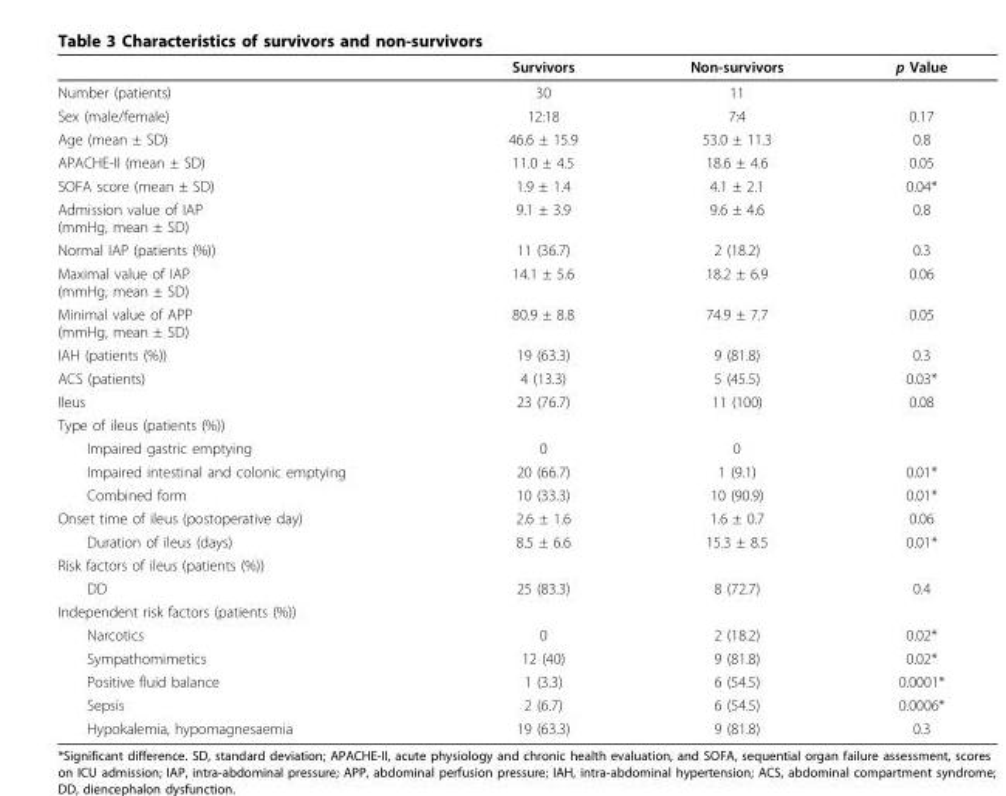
<table><thead><tr><td></td><td>Survivors</td><td>Non-survivors</td><td>p Value</td></tr></thead><tbody><tr><td>Number (patients)</td><td>30</td><td>11</td><td></td></tr><tr><td>Sex (male/female)</td><td>12:18</td><td>7:4</td><td>0.17</td></tr><tr><td>Age (mean ± SD)</td><td>46.6 ± 15.9</td><td>53.0 ± 11.3</td><td>0.8</td></tr><tr><td>APACHE-II (mean ± SD)</td><td>11.0 ± 4.5</td><td>18.6 ± 4.6</td><td>0.05</td></tr><tr><td>SOFA score (mean ± SD)</td><td>1.9 ± 1.4</td><td>4.1 ± 2.1</td><td>0.04*</td></tr><tr><td>Admission value of IAP (mmHg, mean ± SD)</td><td>9.1 ± 3.9</td><td>9.6 ± 4.6</td><td>0.8</td></tr><tr><td>Normal IAP (patients (%))</td><td>11 (36.7)</td><td>2 (18.2)</td><td>0.3</td></tr><tr><td>Maximal value of IAP (mmHg, mean ± SD)</td><td>14.1 ± 5.6</td><td>18.2 ± 6.9</td><td>0.06</td></tr><tr><td>Minimal value of APP (mmHg, mean ± SD)</td><td>80.9 ± 8.8</td><td>74.9 ± 7.7</td><td>0.05</td></tr><tr><td>IAH (patients (%))</td><td>19 (63.3)</td><td>9 (81.8)</td><td>0.3</td></tr><tr><td>ACS (patients)</td><td>4 (13.3)</td><td>5 (45.5)</td><td>0.03*</td></tr><tr><td>Ileus</td><td>23 (76.7)</td><td>11 (100)</td><td>0.08</td></tr><tr><td colspan="4">Type of ileus (patients (%))</td></tr><tr><td>Impaired gastric emptying</td><td>0</td><td>0</td><td></td></tr><tr><td>Impaired intestinal and colonic emptying</td><td>20 (66.7)</td><td>1 (9.1)</td><td>0.01*</td></tr><tr><td>Combined form</td><td>10 (33.3)</td><td>10 (90.9)</td><td>0.01*</td></tr><tr><td>Onset time of ileus (postoperative day)</td><td>2.6 ± 1.6</td><td>1.6 ± 0.7</td><td>0.06</td></tr><tr><td>Duration of ileus (days)</td><td>8.5 ± 6.6</td><td>15.3 ± 8.5</td><td>0.01*</td></tr><tr><td colspan="4">Risk factors of ileus (patients (%))</td></tr><tr><td>DD</td><td>25 (83.3)</td><td>8 (72.7)</td><td>0.4</td></tr><tr><td colspan="4">Independent risk factors (patients (%))</td></tr><tr><td>Narcotics</td><td>0</td><td>2 (18.2)</td><td>0.02*</td></tr><tr><td>Sympathomimetics</td><td>12 (40)</td><td>9 (81.8)</td><td>0.02*</td></tr><tr><td>Positive fluid balance</td><td>1 (3.3)</td><td>6 (54.5)</td><td>0.0001*</td></tr><tr><td>Sepsis</td><td>2 (6.7)</td><td>6 (54.5)</td><td>0.0006*</td></tr><tr><td>Hypokalemia, hypomagnesaemia</td><td>19 (63.3)</td><td>9 (81.8)</td><td>0.3</td></tr></tbody></table>